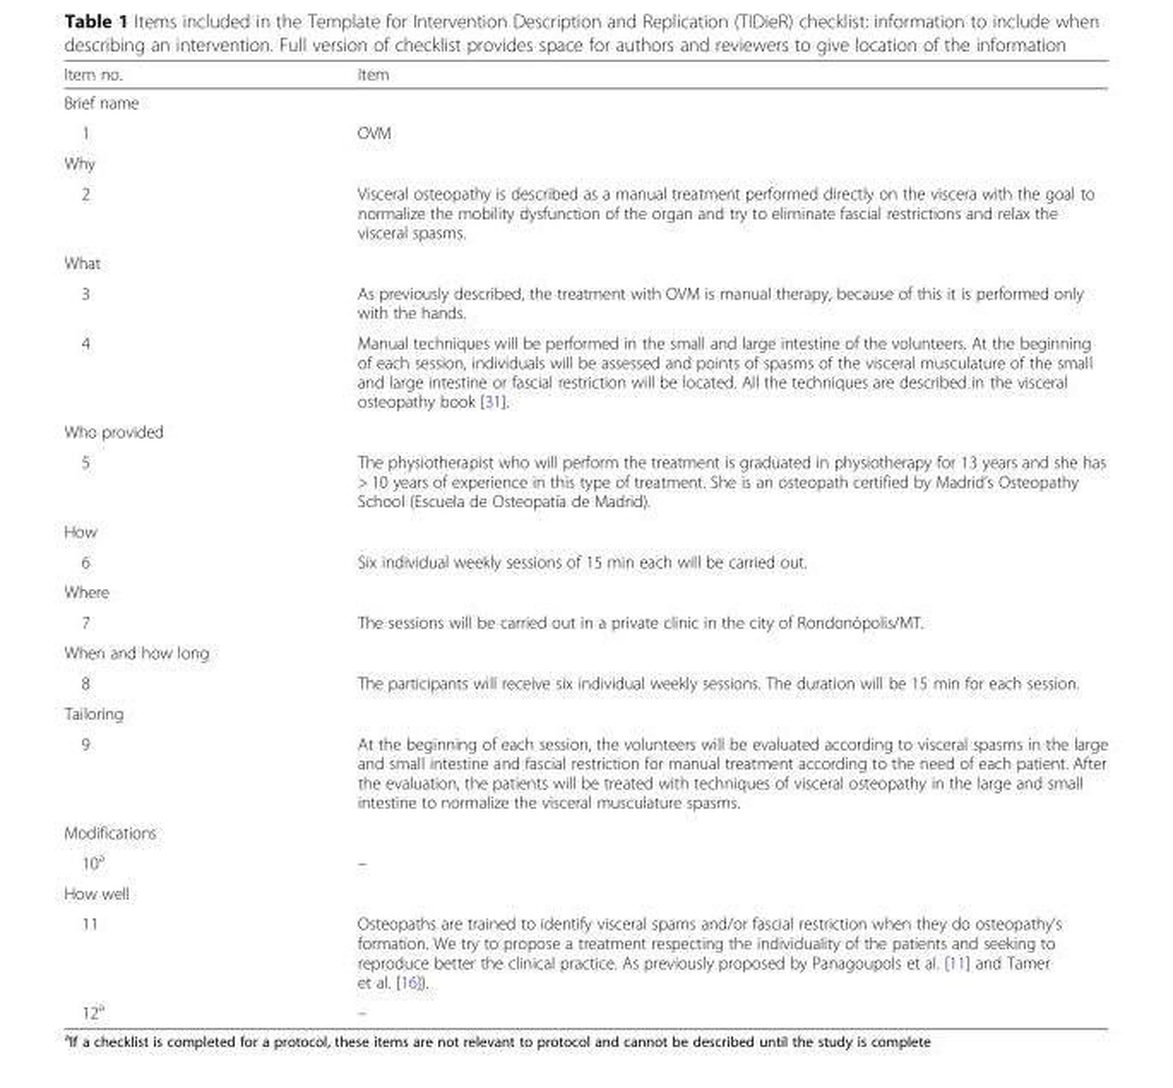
<table><thead><tr><td>Item no.</td><td>Item</td></tr></thead><tbody><tr><td colspan="2">Brief name</td></tr><tr><td>1</td><td>OVM</td></tr><tr><td colspan="2">Why</td></tr><tr><td>2</td><td>Visceral osteopathy is described as a manual treatment performed directly on the viscera with the goal to normalize the mobility dysfunction of the organ and try to eliminate fascial restrictions and relax the visceral spasms.</td></tr><tr><td colspan="2">What</td></tr><tr><td>3</td><td>As previously described, the treatment with OVM is manual therapy, because of this it is performed only with the hands.</td></tr><tr><td>4</td><td>Manual techniques will be performed in the small and large intestine of the volunteers. At the beginning of each session, individuals will be assessed and points of spasms of the visceral musculature of the small and large intestine or fascial restriction will be located. All the techniques are described in the visceral osteopathy book [31].</td></tr><tr><td colspan="2">Who provided</td></tr><tr><td>5</td><td>The physiotherapist who will perform the treatment is graduated in physiotherapy for 13 years and she has &gt; 10 years of experience in this type of treatment. She is an osteopath certified by Madrid’s Osteopathy School (Escuela de Osteopatía de Madrid).</td></tr><tr><td colspan="2">How</td></tr><tr><td>6</td><td>Six individual weekly sessions of 15 min each will be carried out.</td></tr><tr><td colspan="2">Where</td></tr><tr><td>7</td><td>The sessions will be carried out in a private clinic in the city of Rondonópolis/MT.</td></tr><tr><td colspan="2">When and how long</td></tr><tr><td>8</td><td>The participants will receive six individual weekly sessions. The duration will be 15 min for each session.</td></tr><tr><td colspan="2">Tailoring</td></tr><tr><td>9</td><td>At the beginning of each session, the volunteers will be evaluated according to visceral spasms in the large and small intestine and fascial restriction for manual treatment according to the need of each patient. After the evaluation, the patients will be treated with techniques of visceral osteopathy in the large and small intestine to normalize the visceral musculature spasms.</td></tr><tr><td colspan="2">Modifications</td></tr><tr><td>10<sup>a</sup></td><td>–</td></tr><tr><td colspan="2">How well</td></tr><tr><td>11</td><td>Osteopaths are trained to identify visceral spams and/or fascial restriction when they do osteopathy’s formation. We try to propose a treatment respecting the individuality of the patients and seeking to reproduce better the clinical practice. As previously proposed by Panagoupols et al. [11] and Tamer et al. [16]).</td></tr><tr><td>12<sup>a</sup></td><td>–</td></tr></tbody></table>